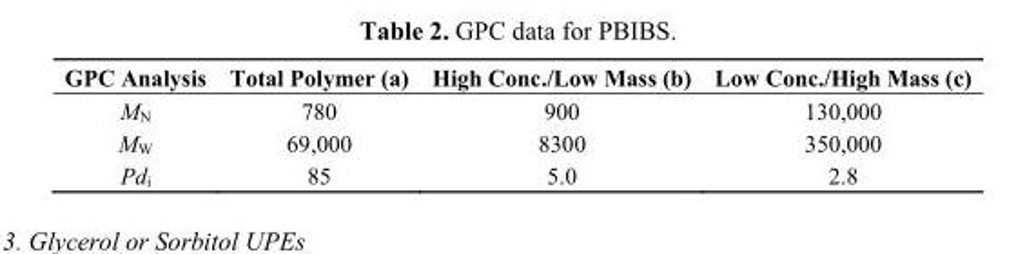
<table><thead><tr><td>GPC Analysis</td><td>Total Polymer (a)</td><td>High Conc./Low Mass (b)</td><td>Low Conc./High Mass (c)</td></tr></thead><tbody><tr><td>M<sub>N</sub></td><td>780</td><td>900</td><td>130,000</td></tr><tr><td>M<sub>W</sub></td><td>69,000</td><td>8300</td><td>350,000</td></tr><tr><td>Pd<sub>i</sub></td><td>85</td><td>5.0</td><td>2.8</td></tr></tbody></table>